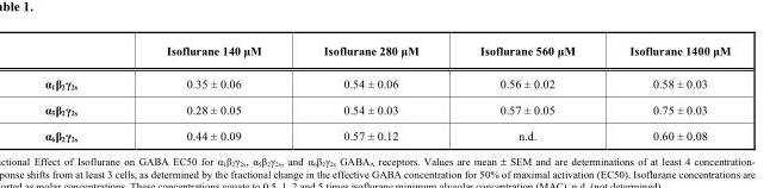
<table><thead><tr><td></td><td>Isoflurane 140 µM</td><td>Isoflurane 280 µM</td><td>Isoflurane 560 µM</td><td>Isoflurane 1400 µM</td></tr></thead><tbody><tr><td>α<sub>1</sub>β<sub>2</sub>γ<sub>2s</sub></td><td>0.35 ± 0.06</td><td>0.54 ± 0.06</td><td>0.56 ± 0.02</td><td>0.58 ± 0.03</td></tr><tr><td>α<sub>5</sub>β<sub>2</sub>γ<sub>2s</sub></td><td>0.28 ± 0.05</td><td>0.54 ± 0.03</td><td>0.57 ± 0.05</td><td>0.75 ± 0.03</td></tr><tr><td>α<sub>6</sub>β<sub>2</sub>γ<sub>2s</sub></td><td>0.44 ± 0.09</td><td>0.57 ± 0.12</td><td>n.d.</td><td>0.60 ± 0.08</td></tr></tbody></table>